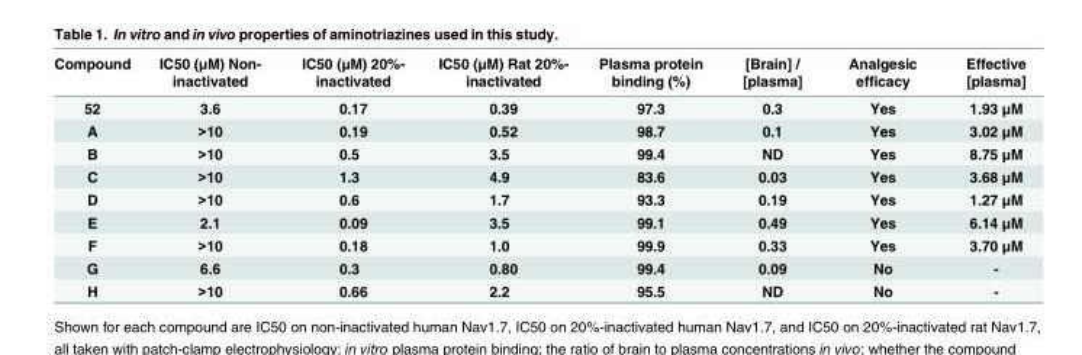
<table><thead><tr><td>Compound</td><td>IC50 (μM) Non- inactivated</td><td>IC50 (μM) 20%- inactivated</td><td>IC50 (μM) Rat 20%- inactivated</td><td>Plasma protein binding (%)</td><td>[Brain] / [plasma]</td><td>Analgesic efficacy</td><td>Effective [plasma]</td></tr></thead><tbody><tr><td>52</td><td>3.6</td><td>0.17</td><td>0.39</td><td>97.3</td><td>0.3</td><td>Yes</td><td>1.93 μM</td></tr><tr><td>A</td><td>&gt;10</td><td>0.19</td><td>0.52</td><td>98.7</td><td>0.1</td><td>Yes</td><td>3.02 μM</td></tr><tr><td>B</td><td>&gt;10</td><td>0.5</td><td>3.5</td><td>99.4</td><td>ND</td><td>Yes</td><td>8.75 μM</td></tr><tr><td>C</td><td>&gt;10</td><td>1.3</td><td>4.9</td><td>83.6</td><td>0.03</td><td>Yes</td><td>3.68 μM</td></tr><tr><td>D</td><td>&gt;10</td><td>0.6</td><td>1.7</td><td>93.3</td><td>0.19</td><td>Yes</td><td>1.27 μM</td></tr><tr><td>E</td><td>2.1</td><td>0.09</td><td>3.5</td><td>99.1</td><td>0.49</td><td>Yes</td><td>6.14 μM</td></tr><tr><td>F</td><td>&gt;10</td><td>0.18</td><td>1.0</td><td>99.9</td><td>0.33</td><td>Yes</td><td>3.70 μM</td></tr><tr><td>G</td><td>6.6</td><td>0.3</td><td>0.80</td><td>99.4</td><td>0.09</td><td>No</td><td>-</td></tr><tr><td>H</td><td>&gt;10</td><td>0.66</td><td>2.2</td><td>95.5</td><td>ND</td><td>No</td><td>-</td></tr></tbody></table>